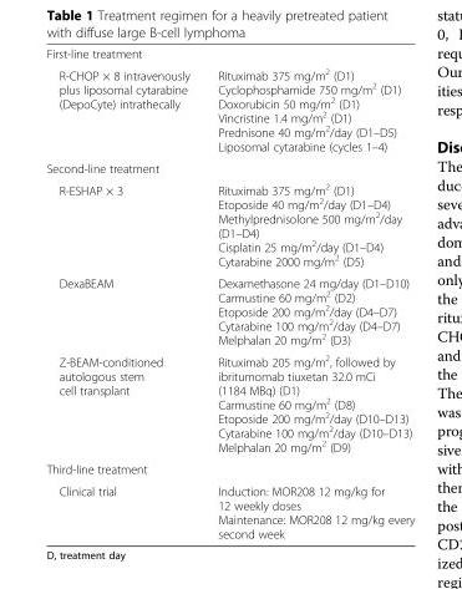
<table><tbody><tr><td colspan="2">First-line treatment</td></tr><tr><td>R-CHOP × 8 intravenously plus liposomal cytarabine (DepoCyte) intrathecally</td><td>Rituximab 375 mg/m<sup>2</sup> (D1) Cyclophosphamide 750 mg/m<sup>2</sup> (D1) Doxorubicin 50 mg/m<sup>2</sup> (D1) Vincristine 1.4 mg/m<sup>2</sup> (D1) Prednisone 40 mg/m<sup>2</sup>/day (D1–D5) Liposomal cytarabine (cycles 1–4)</td></tr><tr><td colspan="2">Second-line treatment</td></tr><tr><td>R-ESHAP × 3</td><td>Rituximab 375 mg/m<sup>2</sup> (D1) Etoposide 40 mg/m<sup>2</sup>/day (D1–D4) Methylprednisolone 500 mg/m<sup>2</sup>/day (D1–D4) Cisplatin 25 mg/m<sup>2</sup>/day (D1–D4) Cytarabine 2000 mg/m<sup>2</sup> (D5)</td></tr><tr><td>DexaBEAM</td><td>Dexamethasone 24 mg/day (D1–D10) Carmustine 60 mg/m<sup>2</sup> (D2) Etoposide 200 mg/m<sup>2</sup>/day (D4–D7) Cytarabine 100 mg/m<sup>2</sup>/day (D4–D7) Melphalan 20 mg/m<sup>2</sup> (D3)</td></tr><tr><td>Z-BEAM-conditioned autologous stem cell transplant</td><td>Rituximab 205 mg/m<sup>2</sup>, followed by ibritumomab tiuxetan 32.0 mCi (1184 MBq) (D1) Carmustine 60 mg/m<sup>2</sup> (D8) Etoposide 200 mg/m<sup>2</sup>/day (D10–D13) Cytarabine 100 mg/m<sup>2</sup>/day (D10–D13) Melphalan 20 mg/m<sup>2</sup> (D9)</td></tr><tr><td colspan="2">Third-line treatment</td></tr><tr><td>Clinical trial</td><td>Induction: MOR208 12 mg/kg for 12 weekly doses Maintenance: MOR208 12 mg/kg every second week</td></tr></tbody></table>